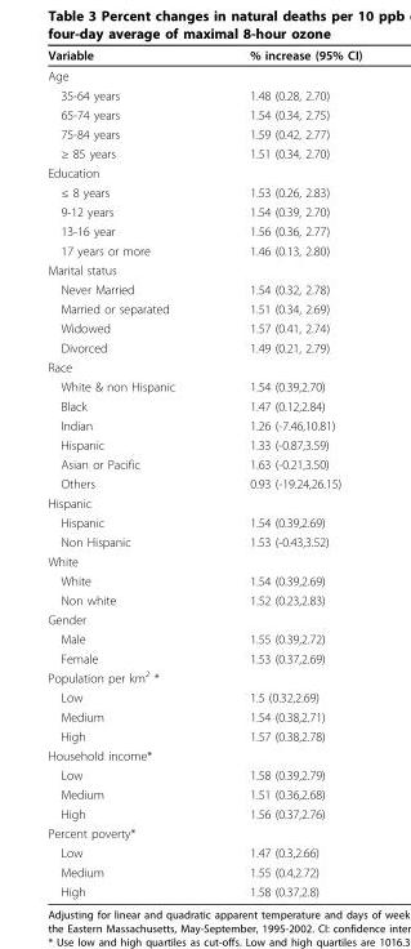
<table><thead><tr><td>Variable</td><td>% increase (95% CI)</td></tr></thead><tbody><tr><td colspan="2">Age</td></tr><tr><td>35-64 years</td><td>1.48 (0.28, 2.70)</td></tr><tr><td>65-74 years</td><td>1.54 (0.34, 2.75)</td></tr><tr><td>75-84 years</td><td>1.59 (0.42, 2.77)</td></tr><tr><td>≥ 85 years</td><td>1.51 (0.34, 2.70)</td></tr><tr><td colspan="2">Education</td></tr><tr><td>≤ 8 years</td><td>1.53 (0.26, 2.83)</td></tr><tr><td>9-12 years</td><td>1.54 (0.39, 2.70)</td></tr><tr><td>13-16 year</td><td>1.56 (0.36, 2.77)</td></tr><tr><td>17 years or more</td><td>1.46 (0.13, 2.80)</td></tr><tr><td colspan="2">Marital status</td></tr><tr><td>Never Married</td><td>1.54 (0.32, 2.78)</td></tr><tr><td>Married or separated</td><td>1.51 (0.34, 2.69)</td></tr><tr><td>Widowed</td><td>1.57 (0.41, 2.74)</td></tr><tr><td>Divorced</td><td>1.49 (0.21, 2.79)</td></tr><tr><td colspan="2">Race</td></tr><tr><td>White &amp; non Hispanic</td><td>1.54 (0.39,2.70)</td></tr><tr><td>Black</td><td>1.47 (0.12,2.84)</td></tr><tr><td>Indian</td><td>1.26 (-7.46,10.81)</td></tr><tr><td>Hispanic</td><td>1.33 (-0.87,3.59)</td></tr><tr><td>Asian or Pacific</td><td>1.63 (-0.21,3.50)</td></tr><tr><td>Others</td><td>0.93 (-19.24,26.15)</td></tr><tr><td colspan="2">Hispanic</td></tr><tr><td>Hispanic</td><td>1.54 (0.39,2.69)</td></tr><tr><td>Non Hispanic</td><td>1.53 (-0.43,3.52)</td></tr><tr><td colspan="2">White</td></tr><tr><td>White</td><td>1.54 (0.39,2.69)</td></tr><tr><td>Non white</td><td>1.52 (0.23,2.83)</td></tr><tr><td colspan="2">Gender</td></tr><tr><td>Male</td><td>1.55 (0.39,2.72)</td></tr><tr><td>Female</td><td>1.53 (0.37,2.69)</td></tr><tr><td colspan="2">Population per km<sup>2</sup> *</td></tr><tr><td>Low</td><td>1.5 (0.32,2.69)</td></tr><tr><td>Medium</td><td>1.54 (0.38,2.71)</td></tr><tr><td>High</td><td>1.57 (0.38,2.78)</td></tr><tr><td colspan="2">Household income*</td></tr><tr><td>Low</td><td>1.58 (0.39,2.79)</td></tr><tr><td>Medium</td><td>1.51 (0.36,2.68)</td></tr><tr><td>High</td><td>1.56 (0.37,2.76)</td></tr><tr><td colspan="2">Percent poverty*</td></tr><tr><td>Low</td><td>1.47 (0.3,2.66)</td></tr><tr><td>Medium</td><td>1.55 (0.4,2.72)</td></tr><tr><td>High</td><td>1.58 (0.37,2.8)</td></tr></tbody></table>